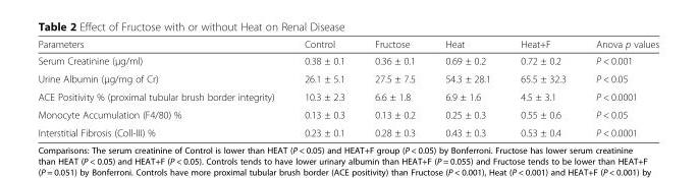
<table><thead><tr><td>Parameters</td><td>Control</td><td>Fructose</td><td>Heat</td><td>Heat+F</td><td>Anova p values</td></tr></thead><tbody><tr><td>Serum Creatinine (μg/ml)</td><td>0.38 ± 0.1</td><td>0.36 ± 0.1</td><td>0.69 ± 0.2</td><td>0.72 ± 0.2</td><td>P &lt; 0.001</td></tr><tr><td>Urine Albumin (μg/mg of Cr)</td><td>26.1 ± 5.1</td><td>27.5 ± 7.5</td><td>54.3 ± 28.1</td><td>65.5 ± 32.3</td><td>P &lt; 0.05</td></tr><tr><td>ACE Positivity % (proximal tubular brush border integrity)</td><td>10.3 ± 2.3</td><td>6.6 ± 1.8</td><td>6.9 ± 1.6</td><td>4.5 ± 3.1</td><td>P &lt; 0.0001</td></tr><tr><td>Monocyte Accumulation (F4/80) %</td><td>0.13 ± 0.3</td><td>0.13 ± 0.2</td><td>0.25 ± 0.3</td><td>0.55 ± 0.6</td><td>P &lt; 0.05</td></tr><tr><td>Interstitial Fibrosis (Coll-III) %</td><td>0.23 ± 0.1</td><td>0.28 ± 0.3</td><td>0.43 ± 0.3</td><td>0.53 ± 0.4</td><td>P &lt; 0.0001</td></tr></tbody></table>